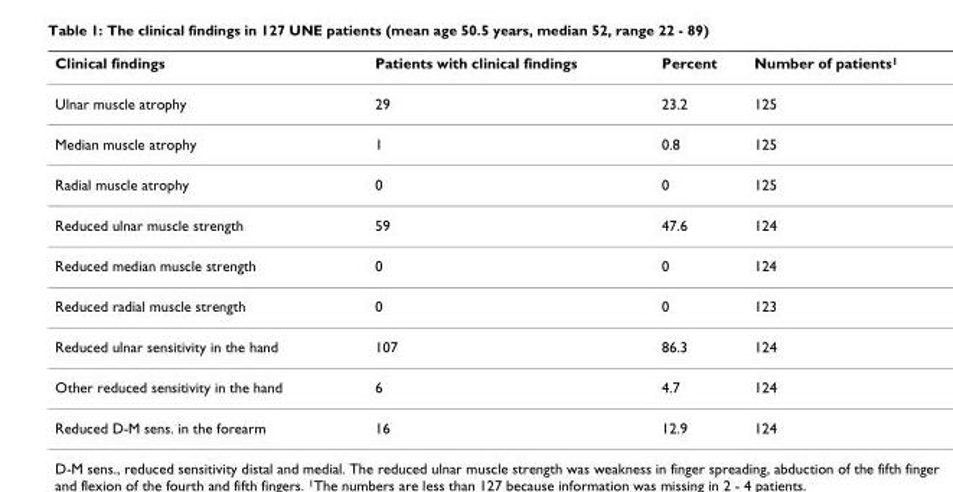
<table><thead><tr><td>Clinical findings</td><td>Patients with clinical findings</td><td>Percent</td><td>Number of patients<sup>1</sup></td></tr></thead><tbody><tr><td>Ulnar muscle atrophy</td><td>29</td><td>23.2</td><td>125</td></tr><tr><td>Median muscle atrophy</td><td>1</td><td>0.8</td><td>125</td></tr><tr><td>Radial muscle atrophy</td><td>0</td><td>0</td><td>125</td></tr><tr><td>Reduced ulnar muscle strength</td><td>59</td><td>47.6</td><td>124</td></tr><tr><td>Reduced median muscle strength</td><td>0</td><td>0</td><td>124</td></tr><tr><td>Reduced radial muscle strength</td><td>0</td><td>0</td><td>123</td></tr><tr><td>Reduced ulnar sensitivity in the hand</td><td>107</td><td>86.3</td><td>124</td></tr><tr><td>Other reduced sensitivity in the hand</td><td>6</td><td>4.7</td><td>124</td></tr><tr><td>Reduced D-M sens. in the forearm</td><td>16</td><td>12.9</td><td>124</td></tr></tbody></table>